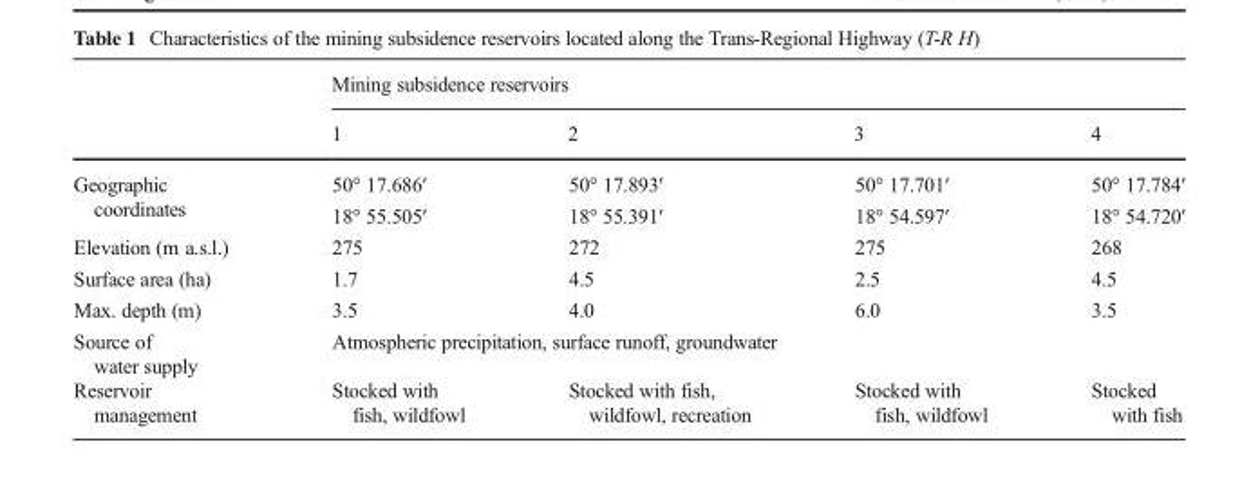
<table><thead><tr><td rowspan="2"></td><td colspan="4">Mining subsidence reservoirs</td></tr><tr><td>1</td><td>2</td><td>3</td><td>4</td></tr></thead><tbody><tr><td rowspan="2">Geographic coordinates</td><td>50° 17.686′</td><td>50° 17.893′</td><td>50° 17.701′</td><td>50° 17.784′</td></tr><tr><td>18° 55.505′</td><td>18° 55.391′</td><td>18° 54.597′</td><td>18° 54.720′</td></tr><tr><td>Elevation (m a.s.l.)</td><td>275</td><td>272</td><td>275</td><td>268</td></tr><tr><td>Surface area (ha)</td><td>1.7</td><td>4.5</td><td>2.5</td><td>4.5</td></tr><tr><td>Max. depth (m)</td><td>3.5</td><td>4.0</td><td>6.0</td><td>3.5</td></tr><tr><td>Source of water supply</td><td colspan="4">Atmospheric precipitation, surface runoff, groundwater</td></tr><tr><td>Reservoir management</td><td>Stocked with fish, wildfowl</td><td>Stocked with fish, wildfowl, recreation</td><td>Stocked with fish, wildfowl</td><td>Stocked with fish</td></tr></tbody></table>